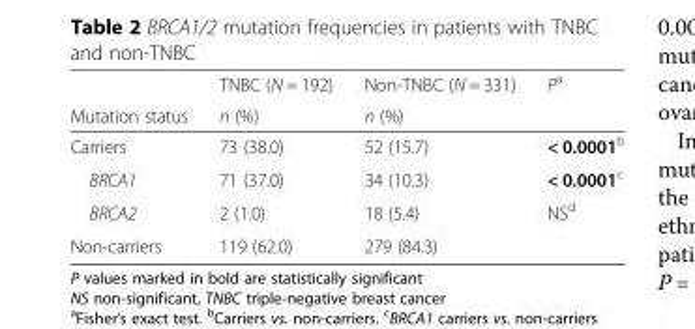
<table><thead><tr><td rowspan="2">Mutation status</td><td rowspan="2">TNBC (N = 192) n (%)</td><td rowspan="2">Non-TNBC (N = 331) n (%)</td><td rowspan="2">P<sup>a</sup></td></tr><tr></tr></thead><tbody><tr><td>Carriers</td><td>73 (38.0)</td><td>52 (15.7)</td><td>&lt; 0.0001<sup>b</sup></td></tr><tr><td>BRCA1</td><td>71 (37.0)</td><td>34 (10.3)</td><td>&lt; 0.0001<sup>c</sup></td></tr><tr><td>BRCA2</td><td>2 (1.0)</td><td>18 (5.4)</td><td>NS<sup>d</sup></td></tr><tr><td>Non-carriers</td><td>119 (62.0)</td><td>279 (84.3)</td><td></td></tr></tbody></table>